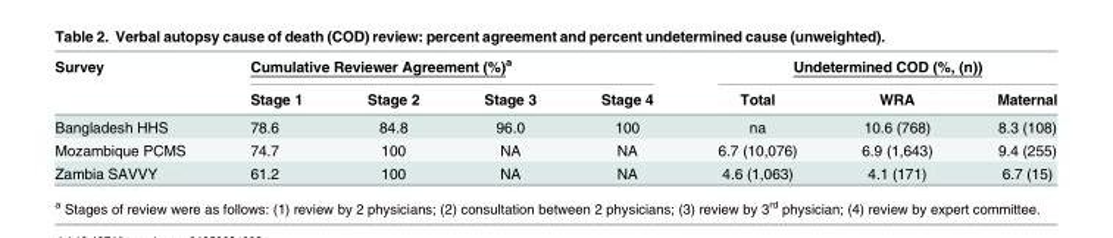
<table><thead><tr><td rowspan="2">Survey</td><td colspan="4">Cumulative Reviewer Agreement (%)<sup>a</sup></td><td colspan="3">Undetermined COD (%, (n))</td></tr><tr><td>Stage 1</td><td>Stage 2</td><td>Stage 3</td><td>Stage 4</td><td>Total</td><td>WRA</td><td>Maternal</td></tr></thead><tbody><tr><td>Bangladesh HHS</td><td>78.6</td><td>84.8</td><td>96.0</td><td>100</td><td>na</td><td>10.6 (768)</td><td>8.3 (108)</td></tr><tr><td>Mozambique PCMS</td><td>74.7</td><td>100</td><td>NA</td><td>NA</td><td>6.7 (10,076)</td><td>6.9 (1,643)</td><td>9.4 (255)</td></tr><tr><td>Zambia SAVVY</td><td>61.2</td><td>100</td><td>NA</td><td>NA</td><td>4.6 (1,063)</td><td>4.1 (171)</td><td>6.7 (15)</td></tr></tbody></table>